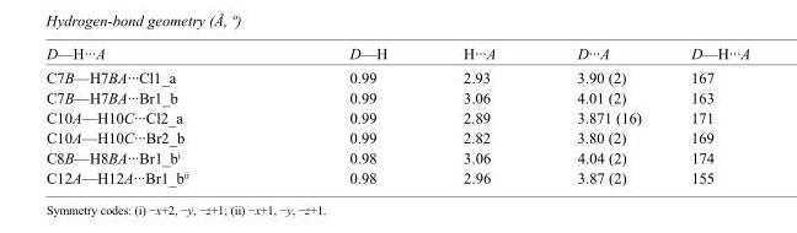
<table><tbody><tr><td>D—H···A</td><td>D—H</td><td>H···A</td><td>D···A</td><td>D—H···A</td></tr><tr><td>C7B—H7BA···Cl1_a</td><td>0.99</td><td>2.93</td><td>3.90 (2)</td><td>167</td></tr><tr><td>C7B—H7BA···Br1_b</td><td>0.99</td><td>3.06</td><td>4.01 (2)</td><td>163</td></tr><tr><td>C10A—H10C···Cl2_a</td><td>0.99</td><td>2.89</td><td>3.871 (16)</td><td>171</td></tr><tr><td>C10A—H10C···Br2_b</td><td>0.99</td><td>2.82</td><td>3.80 (2)</td><td>169</td></tr><tr><td>C8B—H8BA···Br1_b<sup>i</sup></td><td>0.98</td><td>3.06</td><td>4.04 (2)</td><td>174</td></tr><tr><td>C12A—H12A···Br1_b<sup>ii</sup></td><td>0.98</td><td>2.96</td><td>3.87 (2)</td><td>155</td></tr></tbody></table>